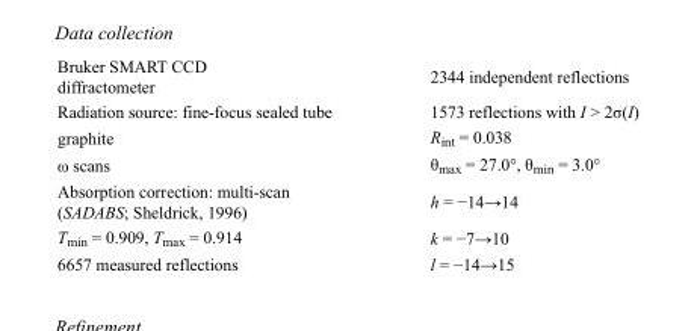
<table><tbody><tr><td>Bruker SMART CCD diffractometer</td><td>2344 independent reflections</td></tr><tr><td>Radiation source: fine-focus sealed tube</td><td>1573 reflections with I &gt; 2σ(I)</td></tr><tr><td>graphite</td><td>R<sub>int</sub> = 0.038</td></tr><tr><td>ω scans</td><td>θ<sub>max</sub> = 27.0°, θ<sub>min</sub> = 3.0°</td></tr><tr><td>Absorption correction: multi-scan (SADABS; Sheldrick, 1996)</td><td>h = −14→14</td></tr><tr><td>T<sub>min</sub> = 0.909, T<sub>max</sub> = 0.914</td><td>k = −7→10</td></tr><tr><td>6657 measured reflections</td><td>l = −14→15</td></tr></tbody></table>